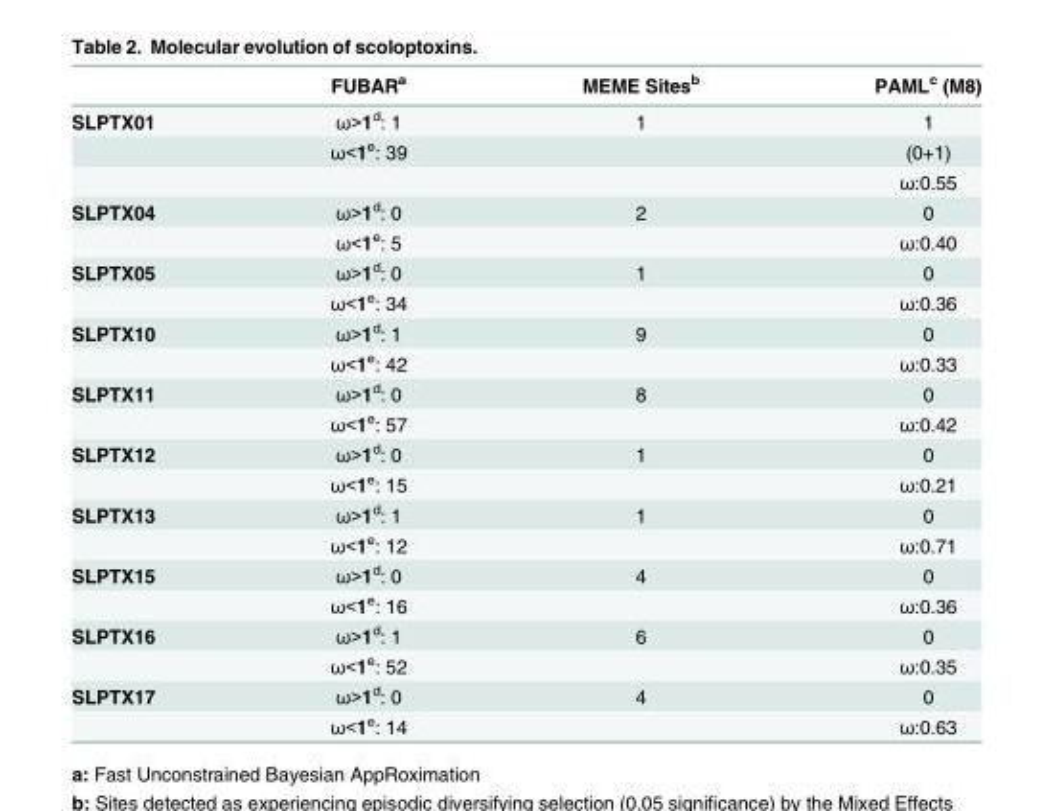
<table><thead><tr><td></td><td>FUBAR<sup>a</sup></td><td>MEME Sites<sup>b</sup></td><td>PAML<sup>c</sup> (M8)</td></tr></thead><tbody><tr><td rowspan="3">SLPTX01</td><td>ω&gt;1<sup>d</sup>: 1</td><td>1</td><td>1</td></tr><tr><td>ω&lt;1<sup>e</sup>: 39</td><td></td><td>(0+1)</td></tr><tr><td></td><td></td><td>ω:0.55</td></tr><tr><td rowspan="2">SLPTX04</td><td>ω&gt;1<sup>d</sup>: 0</td><td>2</td><td>0</td></tr><tr><td>ω&lt;1<sup>e</sup>: 5</td><td></td><td>ω:0.40</td></tr><tr><td rowspan="2">SLPTX05</td><td>ω&gt;1<sup>d</sup>: 0</td><td>1</td><td>0</td></tr><tr><td>ω&lt;1<sup>e</sup>: 34</td><td></td><td>ω:0.36</td></tr><tr><td rowspan="2">SLPTX10</td><td>ω&gt;1<sup>d</sup>: 1</td><td>9</td><td>0</td></tr><tr><td>ω&lt;1<sup>e</sup>: 42</td><td></td><td>ω:0.33</td></tr><tr><td rowspan="2">SLPTX11</td><td>ω&gt;1<sup>d</sup>: 0</td><td>8</td><td>0</td></tr><tr><td>ω&lt;1<sup>e</sup>: 57</td><td></td><td>ω:0.42</td></tr><tr><td rowspan="2">SLPTX12</td><td>ω&gt;1<sup>d</sup>: 0</td><td>1</td><td>0</td></tr><tr><td>ω&lt;1<sup>e</sup>: 15</td><td></td><td>ω:0.21</td></tr><tr><td rowspan="2">SLPTX13</td><td>ω&gt;1<sup>d</sup>: 1</td><td>1</td><td>0</td></tr><tr><td>ω&lt;1<sup>e</sup>: 12</td><td></td><td>ω:0.71</td></tr><tr><td rowspan="2">SLPTX15</td><td>ω&gt;1<sup>d</sup>: 0</td><td>4</td><td>0</td></tr><tr><td>ω&lt;1<sup>e</sup>: 16</td><td></td><td>ω:0.36</td></tr><tr><td rowspan="2">SLPTX16</td><td>ω&gt;1<sup>d</sup>: 1</td><td>6</td><td>0</td></tr><tr><td>ω&lt;1<sup>e</sup>: 52</td><td></td><td>ω:0.35</td></tr><tr><td rowspan="2">SLPTX17</td><td>ω&gt;1<sup>d</sup>: 0</td><td>4</td><td>0</td></tr><tr><td>ω&lt;1<sup>e</sup>: 14</td><td></td><td>ω:0.63</td></tr></tbody></table>